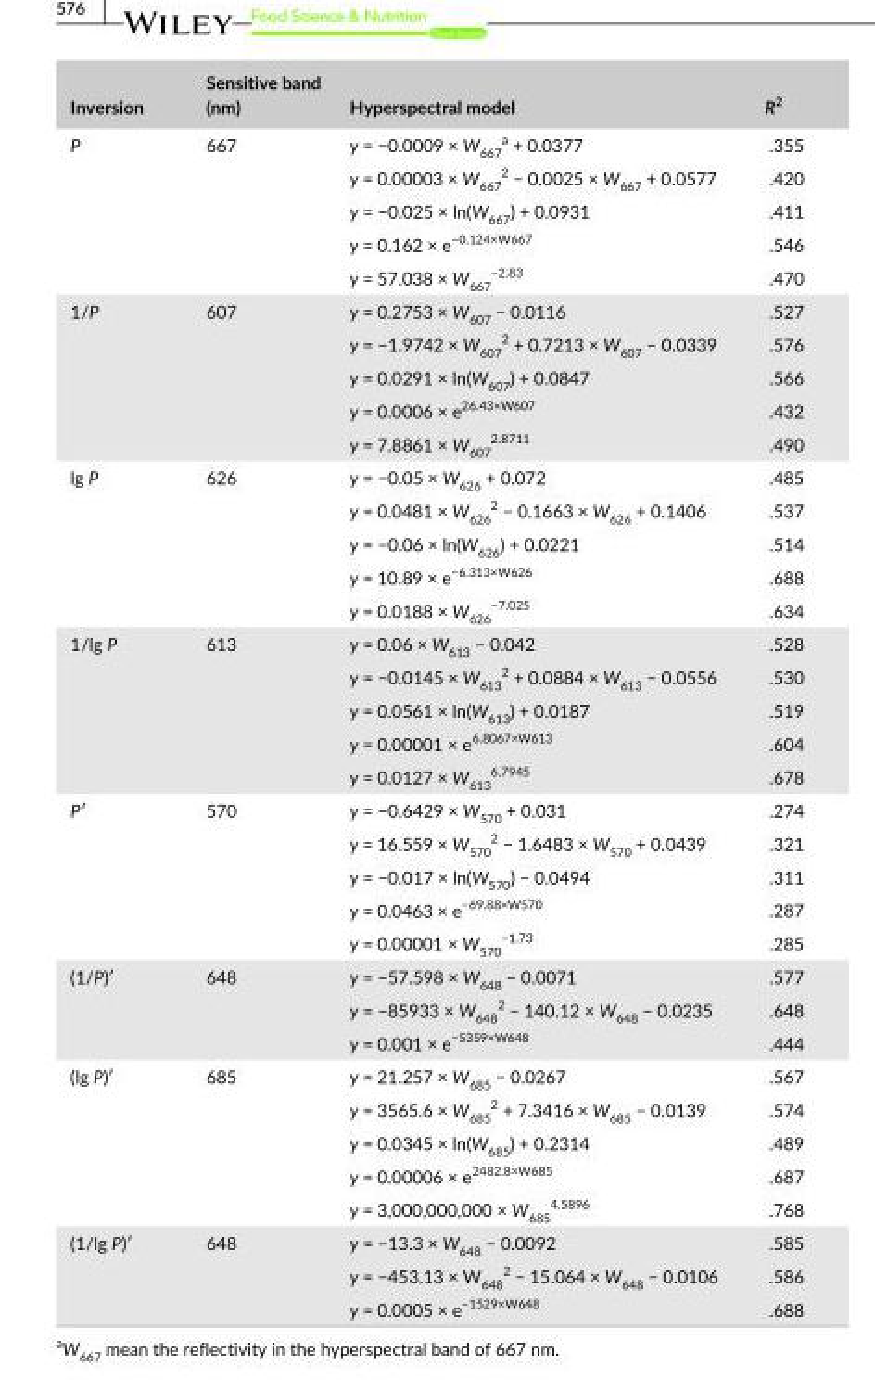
<table><thead><tr><td>Inversion</td><td>Sensitive band (nm)</td><td>Hyperspectral model</td><td>R<sup>2</sup></td></tr></thead><tbody><tr><td rowspan="5">P</td><td rowspan="5">667</td><td>y = −0.0009 × W<sub>667</sub> a + 0.0377</td><td>.355</td></tr><tr><td>y = 0.00003 × W<sub>667</sub> <sup>2</sup> − 0.0025 × W<sub>667</sub> + 0.0577</td><td>.420</td></tr><tr><td>y = −0.025 × ln(W<sub>667</sub>) + 0.0931</td><td>.411</td></tr><tr><td>y = 0.162 × e<sup>−0.124×W667</sup></td><td>.546</td></tr><tr><td>y = 57.038 × W<sub>667</sub> <sup>−2.83</sup></td><td>.470</td></tr><tr><td rowspan="5">1/P</td><td rowspan="5">607</td><td>y = 0.2753 × W<sub>607</sub> − 0.0116</td><td>.527</td></tr><tr><td>y = −1.9742 × W<sub>607</sub> <sup>2</sup> + 0.7213 × W<sub>607</sub> − 0.0339</td><td>.576</td></tr><tr><td>y = 0.0291 × ln(W<sub>607</sub>) + 0.0847</td><td>.566</td></tr><tr><td>y = 0.0006 × e<sup>26.43×W607</sup></td><td>.432</td></tr><tr><td>y = 7.8861 × W<sub>607</sub> <sup>2.8711</sup></td><td>.490</td></tr><tr><td rowspan="5">lg P</td><td rowspan="5">626</td><td>y = −0.05 × W<sub>626</sub> + 0.072</td><td>.485</td></tr><tr><td>y = 0.0481 × W<sub>626</sub> <sup>2</sup> − 0.1663 × W<sub>626</sub> + 0.1406</td><td>.537</td></tr><tr><td>y = −0.06 × ln(W<sub>626</sub>) + 0.0221</td><td>.514</td></tr><tr><td>y = 10.89 × e<sup>−6.313×W626</sup></td><td>.688</td></tr><tr><td>y = 0.0188 × W<sub>626</sub> <sup>−7.025</sup></td><td>.634</td></tr><tr><td rowspan="5">1/lg P</td><td rowspan="5">613</td><td>y = 0.06 × W<sub>613</sub> − 0.042</td><td>.528</td></tr><tr><td>y = −0.0145 × W<sub>613</sub> <sup>2</sup> + 0.0884 × W<sub>613</sub> − 0.0556</td><td>.530</td></tr><tr><td>y = 0.0561 × ln(W<sub>613</sub>) + 0.0187</td><td>.519</td></tr><tr><td>y = 0.00001 × e<sup>6.8067×W613</sup></td><td>.604</td></tr><tr><td>y = 0.0127 × W<sub>613</sub> <sup>6.7945</sup></td><td>.678</td></tr><tr><td rowspan="5">P′</td><td rowspan="5">570</td><td>y = −0.6429 × W<sub>570</sub> + 0.031</td><td>.274</td></tr><tr><td>y = 16.559 × W<sub>570</sub> <sup>2</sup> − 1.6483 × W<sub>570</sub> + 0.0439</td><td>.321</td></tr><tr><td>y = −0.017 × ln(W<sub>570</sub>) − 0.0494</td><td>.311</td></tr><tr><td>y = 0.0463 × e<sup>−69.88×W570</sup></td><td>.287</td></tr><tr><td>y = 0.00001 × W<sub>570</sub> <sup>−1.73</sup></td><td>.285</td></tr><tr><td rowspan="3">(1/P)′</td><td rowspan="3">648</td><td>y = −57.598 × W<sub>648</sub> − 0.0071</td><td>.577</td></tr><tr><td>y = −85933 × W<sub>648</sub> <sup>2</sup> − 140.12 × W<sub>648</sub> − 0.0235</td><td>.648</td></tr><tr><td>y = 0.001 × e<sup>−5359×W648</sup></td><td>.444</td></tr><tr><td rowspan="5">(lg P)′</td><td rowspan="5">685</td><td>y = 21.257 × W<sub>685</sub> − 0.0267</td><td>.567</td></tr><tr><td>y = 3565.6 × W<sub>685</sub> <sup>2</sup> + 7.3416 × W<sub>685</sub> − 0.0139</td><td>.574</td></tr><tr><td>y = 0.0345 × ln(W<sub>685</sub>) + 0.2314</td><td>.489</td></tr><tr><td>y = 0.00006 × e<sup>2482.8×W685</sup></td><td>.687</td></tr><tr><td>y = 3,000,000,000 × W<sub>685</sub> <sup>4.5896</sup></td><td>.768</td></tr><tr><td rowspan="3">(1/lg P)′</td><td rowspan="3">648</td><td>y = −13.3 × W<sub>648</sub> − 0.0092</td><td>.585</td></tr><tr><td>y = −453.13 × W<sub>648</sub> <sup>2</sup> − 15.064 × W<sub>648</sub> − 0.0106</td><td>.586</td></tr><tr><td>y = 0.0005 × e<sup>−1529×W648</sup></td><td>.688</td></tr></tbody></table>